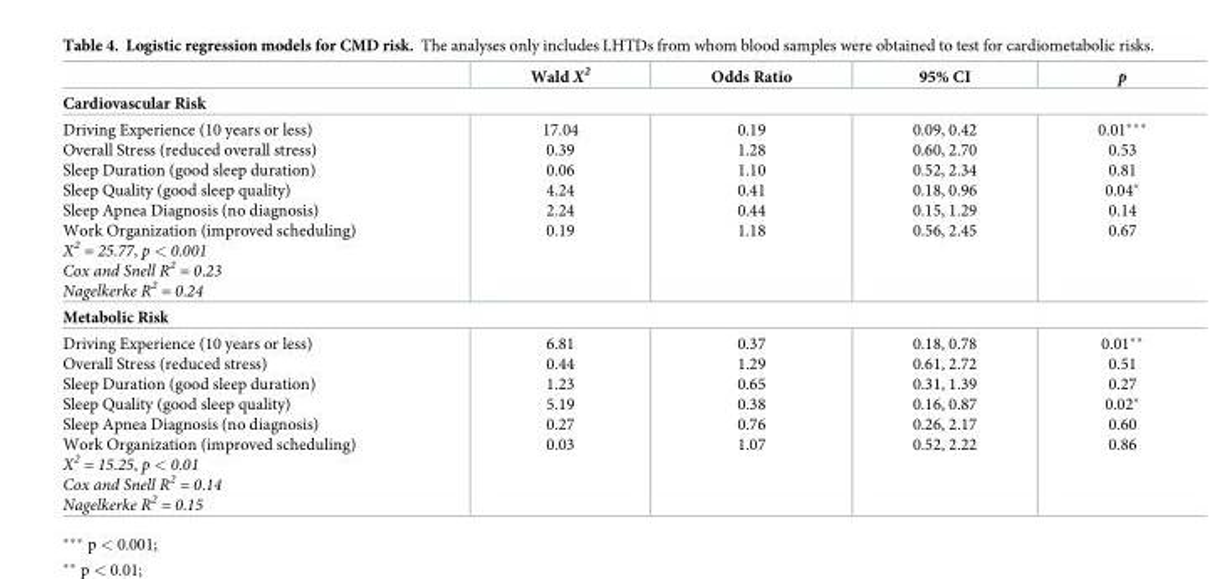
<table><thead><tr><td></td><td>Wald X<sup>2</sup></td><td>Odds Ratio</td><td>95% CI</td><td>p</td></tr></thead><tbody><tr><td colspan="5">Cardiovascular Risk</td></tr><tr><td>Driving Experience (10 years or less) Overall Stress (reduced overall stress) Sleep Duration (good sleep duration) Sleep Quality (good sleep quality) Sleep Apnea Diagnosis (no diagnosis) Work Organization (improved scheduling) X<sup>2</sup> = 25.77, p &lt; 0.001 Cox and Snell R<sup>2</sup> = 0.23 Nagelkerke R<sup>2</sup> = 0.24</td><td>17.04 0.39 0.06 4.24 2.24 0.19</td><td>0.19 1.28 1.10 0.41 0.44 1.18</td><td>0.09, 0.42 0.60, 2.70 0.52, 2.34 0.18, 0.96 0.15, 1.29 0.56, 2.45</td><td>0.01*** 0.53 0.81 0.04* 0.14 0.67</td></tr><tr><td colspan="5">Metabolic Risk</td></tr><tr><td>Driving Experience (10 years or less) Overall Stress (reduced stress) Sleep Duration (good sleep duration) Sleep Quality (good sleep quality) Sleep Apnea Diagnosis (no diagnosis) Work Organization (improved scheduling) X<sup>2</sup> = 15.25, p &lt; 0.01 Cox and Snell R<sup>2</sup> = 0.14 Nagelkerke R<sup>2</sup> = 0.15</td><td>6.81 0.44 1.23 5.19 0.27 0.03</td><td>0.37 1.29 0.65 0.38 0.76 1.07</td><td>0.18, 0.78 0.61, 2.72 0.31, 1.39 0.16, 0.87 0.26, 2.17 0.52, 2.22</td><td>0.01** 0.51 0.27 0.02* 0.60 0.86</td></tr></tbody></table>